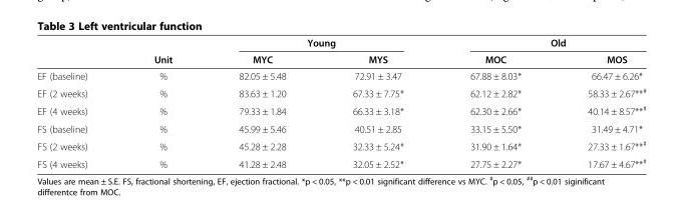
<table><thead><tr><td rowspan="2"></td><td rowspan="2">Unit</td><td colspan="2">Young</td><td colspan="2">Old</td></tr><tr><td>MYC</td><td>MYS</td><td>MOC</td><td>MOS</td></tr></thead><tbody><tr><td>EF (baseline)</td><td>%</td><td>82.05 ± 5.48</td><td>72.91 ± 3.47</td><td>67.88 ± 8.03*</td><td>66.47 ± 6.26*</td></tr><tr><td>EF (2 weeks)</td><td>%</td><td>83.63 ± 1.20</td><td>67.33 ± 7.75*</td><td>62.12 ± 2.82*</td><td>58.33 ± 2.67**<sup>#</sup></td></tr><tr><td>EF (4 weeks)</td><td>%</td><td>79.33 ± 1.84</td><td>66.33 ± 3.18*</td><td>62.30 ± 2.66*</td><td>40.14 ± 8.57**<sup>#</sup></td></tr><tr><td>FS (baseline)</td><td>%</td><td>45.99 ± 5.46</td><td>40.51 ± 2.85</td><td>33.15 ± 5.50*</td><td>31.49 ± 4.71*</td></tr><tr><td>FS (2 weeks)</td><td>%</td><td>45.28 ± 2.28</td><td>32.33 ± 5.24*</td><td>31.90 ± 1.64*</td><td>27.33 ± 1.67**<sup>#</sup></td></tr><tr><td>FS (4 weeks)</td><td>%</td><td>41.28 ± 2.48</td><td>32.05 ± 2.52*</td><td>27.75 ± 2.27*</td><td>17.67 ± 4.67**<sup>#</sup></td></tr></tbody></table>